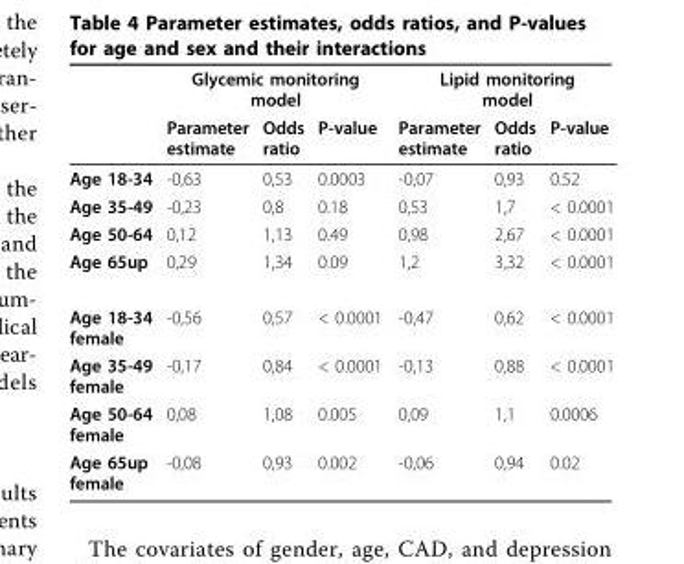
<table><thead><tr><td rowspan="2"></td><td colspan="3">Glycemic monitoring model</td><td colspan="3">Lipid monitoring model</td></tr><tr><td>Parameter estimate</td><td>Odds ratio</td><td>P-value</td><td>Parameter estimate</td><td>Odds ratio</td><td>P-value</td></tr></thead><tbody><tr><td>Age 18-34</td><td>-0,63</td><td>0,53</td><td>0.0003</td><td>-0,07</td><td>0,93</td><td>0.52</td></tr><tr><td>Age 35-49</td><td>-0,23</td><td>0,8</td><td>0.18</td><td>0,53</td><td>1,7</td><td>&lt; 0.0001</td></tr><tr><td>Age 50-64</td><td>0,12</td><td>1,13</td><td>0.49</td><td>0,98</td><td>2,67</td><td>&lt; 0.0001</td></tr><tr><td>Age 65up</td><td>0,29</td><td>1,34</td><td>0.09</td><td>1,2</td><td>3,32</td><td>&lt; 0.0001</td></tr><tr><td>Age 18-34 female</td><td>-0,56</td><td>0,57</td><td>&lt; 0.0001</td><td>-0,47</td><td>0,62</td><td>&lt; 0.0001</td></tr><tr><td>Age 35-49 female</td><td>-0,17</td><td>0,84</td><td>&lt; 0.0001</td><td>-0,13</td><td>0,88</td><td>&lt; 0.0001</td></tr><tr><td>Age 50-64 female</td><td>0,08</td><td>1,08</td><td>0.005</td><td>0,09</td><td>1,1</td><td>0.0006</td></tr><tr><td>Age 65up female</td><td>-0,08</td><td>0,93</td><td>0.002</td><td>-0,06</td><td>0,94</td><td>0.02</td></tr></tbody></table>